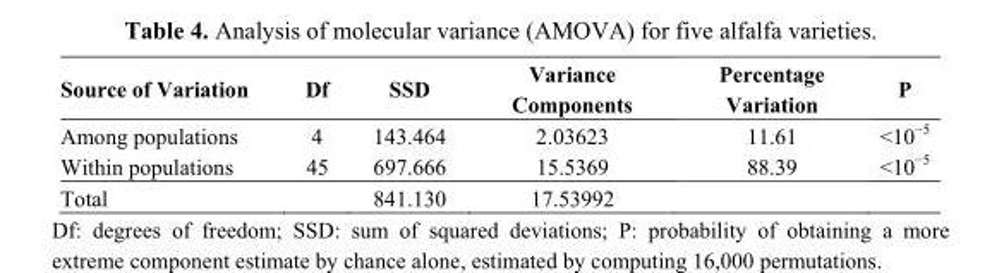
<table><thead><tr><td>Source of Variation</td><td>Df</td><td>SSD</td><td>Variance Components</td><td>Percentage Variation</td><td>P</td></tr></thead><tbody><tr><td>Among populations</td><td>4</td><td>143.464</td><td>2.03623</td><td>11.61</td><td>&lt;10<sup>−5</sup></td></tr><tr><td>Within populations</td><td>45</td><td>697.666</td><td>15.5369</td><td>88.39</td><td>&lt;10<sup>−5</sup></td></tr><tr><td>Total</td><td></td><td>841.130</td><td>17.53992</td><td></td><td></td></tr></tbody></table>